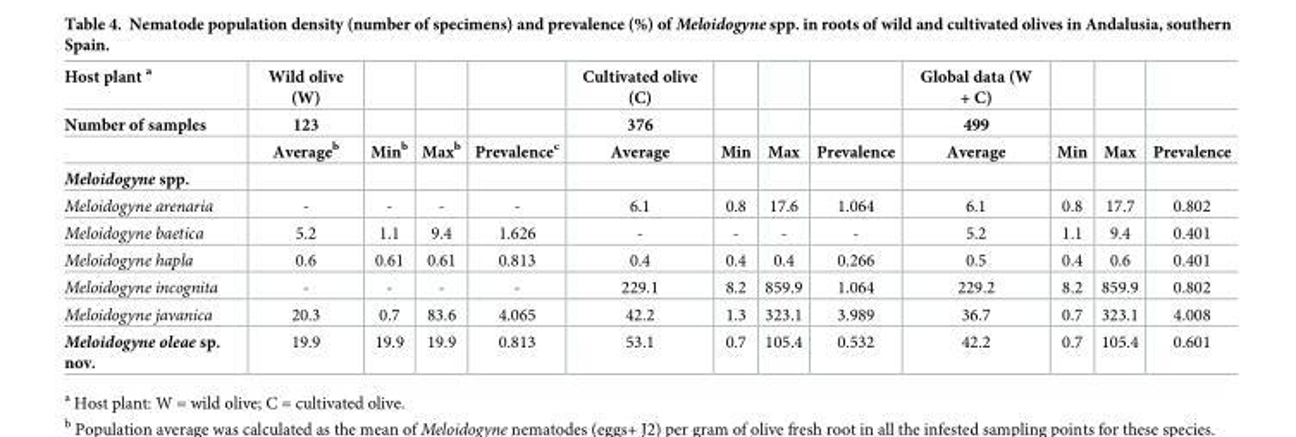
<table><thead><tr><td rowspan="3">Host plant <sup>a</sup> Number of samples</td><td rowspan="3">Wild olive (W) 123 Average<sup>b</sup></td><td rowspan="3">Min<sup>b</sup></td><td rowspan="3">Max<sup>b</sup></td><td rowspan="3">Prevalence<sup>c</sup></td><td rowspan="3">Cultivated olive (C) 376 Average</td><td rowspan="3">Min</td><td rowspan="3">Max</td><td rowspan="3">Prevalence</td><td rowspan="3">Global data (W + C) 499 Average</td><td rowspan="3">Min</td><td rowspan="3">Max</td><td rowspan="3">Prevalence</td></tr><tr></tr><tr></tr></thead><tbody><tr><td colspan="13">Meloidogyne spp.</td></tr><tr><td>Meloidogyne arenaria</td><td>-</td><td>-</td><td>-</td><td>-</td><td>6.1</td><td>0.8</td><td>17.6</td><td>1.064</td><td>6.1</td><td>0.8</td><td>17.7</td><td>0.802</td></tr><tr><td>Meloidogyne baetica</td><td>5.2</td><td>1.1</td><td>9.4</td><td>1.626</td><td>-</td><td>-</td><td>-</td><td>-</td><td>5.2</td><td>1.1</td><td>9.4</td><td>0.401</td></tr><tr><td>Meloidogyne hapla</td><td>0.6</td><td>0.61</td><td>0.61</td><td>0.813</td><td>0.4</td><td>0.4</td><td>0.4</td><td>0.266</td><td>0.5</td><td>0.4</td><td>0.6</td><td>0.401</td></tr><tr><td>Meloidogyne incognita</td><td>-</td><td>-</td><td>-</td><td>-</td><td>229.1</td><td>8.2</td><td>859.9</td><td>1.064</td><td>229.2</td><td>8.2</td><td>859.9</td><td>0.802</td></tr><tr><td>Meloidogyne javanica</td><td>20.3</td><td>0.7</td><td>83.6</td><td>4.065</td><td>42.2</td><td>1.3</td><td>323.1</td><td>3.989</td><td>36.7</td><td>0.7</td><td>323.1</td><td>4.008</td></tr><tr><td>Meloidogyne oleae sp. nov.</td><td>19.9</td><td>19.9</td><td>19.9</td><td>0.813</td><td>53.1</td><td>0.7</td><td>105.4</td><td>0.532</td><td>42.2</td><td>0.7</td><td>105.4</td><td>0.601</td></tr></tbody></table>